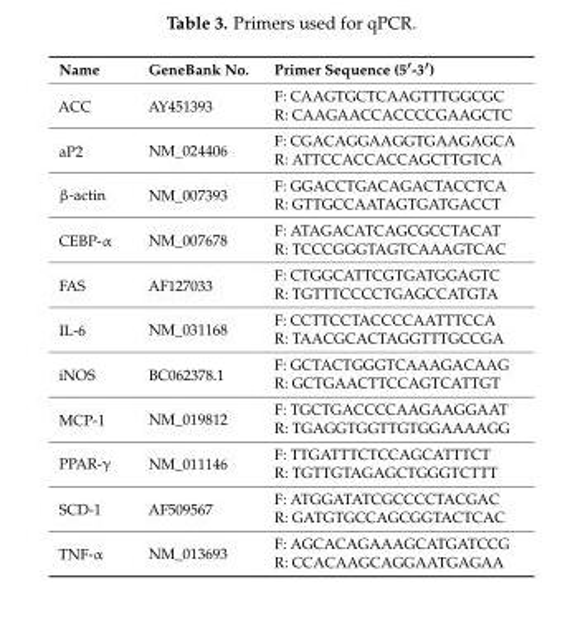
<table><thead><tr><td>Name</td><td>GeneBank No.</td><td>Primer Sequence (5′-3′)</td></tr></thead><tbody><tr><td rowspan="2">ACC</td><td rowspan="2">AY451393</td><td>F: CAAGTGCTCAAGTTTGGCGC</td></tr><tr><td>R: CAAGAACCACCCCGAAGCTC</td></tr><tr><td rowspan="2">aP2</td><td rowspan="2">NM_024406</td><td>F: CGACAGGAAGGTGAAGAGCA</td></tr><tr><td>R: ATTCCACCACCAGCTTGTCA</td></tr><tr><td rowspan="2">β-actin</td><td rowspan="2">NM_007393</td><td>F: GGACCTGACAGACTACCTCA</td></tr><tr><td>R: GTTGCCAATAGTGATGACCT</td></tr><tr><td rowspan="2">CEBP-α</td><td rowspan="2">NM_007678</td><td>F: ATAGACATCAGCGCCTACAT</td></tr><tr><td>R: TCCCGGGTAGTCAAAGTCAC</td></tr><tr><td rowspan="2">FAS</td><td rowspan="2">AF127033</td><td>F: CTGGCATTCGTGATGGAGTC</td></tr><tr><td>R: TGTTTCCCCTGAGCCATGTA</td></tr><tr><td rowspan="2">IL-6</td><td rowspan="2">NM_031168</td><td>F: CCTTCCTACCCCAATTTCCA</td></tr><tr><td>R: TAACGCACTAGGTTTGCCGA</td></tr><tr><td rowspan="2">iNOS</td><td rowspan="2">BC062378.1</td><td>F: GCTACTGGGTCAAAGACAAG</td></tr><tr><td>R: GCTGAACTTCCAGTCATTGT</td></tr><tr><td rowspan="2">MCP-1</td><td rowspan="2">NM_019812</td><td>F: TGCTGACCCCAAGAAGGAAT</td></tr><tr><td>R: TGAGGTGGTTGTGGAAAAGG</td></tr><tr><td rowspan="2">PPAR-γ</td><td rowspan="2">NM_011146</td><td>F: TTGATTTCTCCAGCATTTCT</td></tr><tr><td>R: TGTTGTAGAGCTGGGTCTTT</td></tr><tr><td rowspan="2">SCD-1</td><td rowspan="2">AF509567</td><td>F: ATGGATATCGCCCCTACGAC</td></tr><tr><td>R: GATGTGCCAGCGGTACTCAC</td></tr><tr><td rowspan="2">TNF-α</td><td rowspan="2">NM_013693</td><td>F: AGCACAGAAAGCATGATCCG</td></tr><tr><td>R: CCACAAGCAGGAATGAGAA</td></tr></tbody></table>